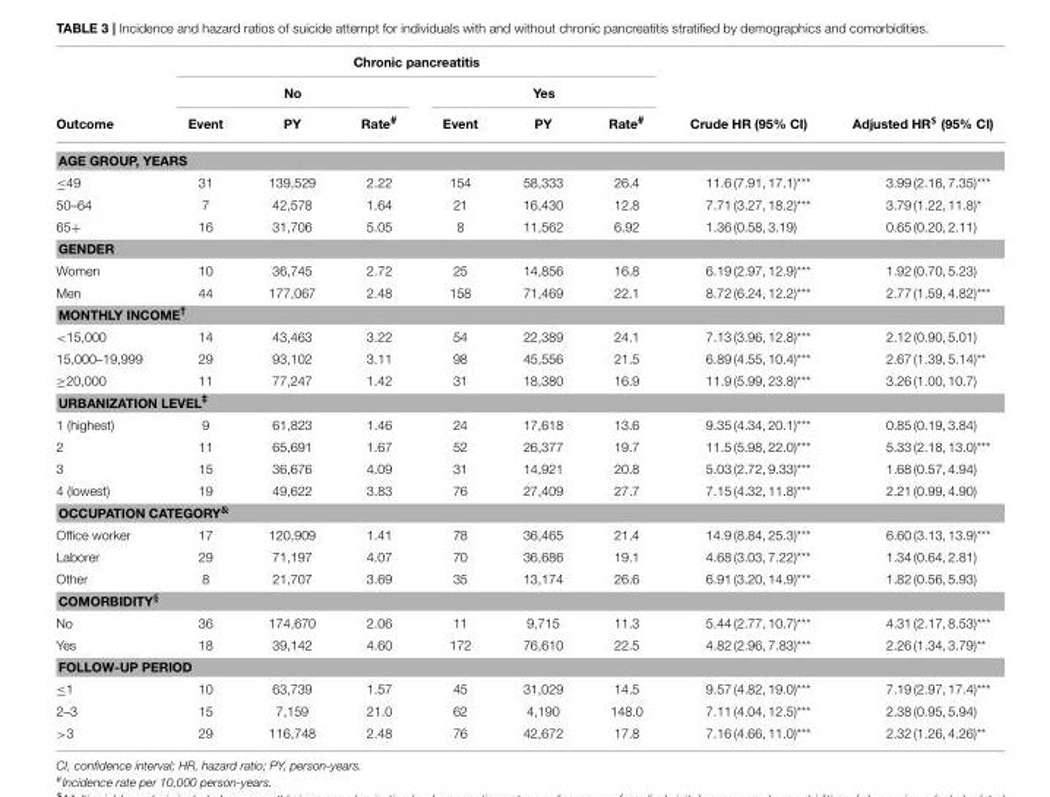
<table><thead><tr><td rowspan="3">Outcome</td><td colspan="6">Chronic pancreatitis</td><td rowspan="3">Crude HR (95% CI)</td><td rowspan="3">Adjusted HR<sup>$</sup> (95% CI)</td></tr><tr><td colspan="3">No</td><td colspan="3">Yes</td></tr><tr><td>Event</td><td>PY</td><td>Rate<sup>#</sup></td><td>Event</td><td>PY</td><td>Rate<sup>#</sup></td></tr></thead><tbody><tr><td colspan="9">AGE GROUP, YEARS</td></tr><tr><td>≤49</td><td>31</td><td>139,529</td><td>2.22</td><td>154</td><td>58,333</td><td>26.4</td><td>11.6 (7.91, 17.1)***</td><td>3.99 (2.16, 7.35)***</td></tr><tr><td>50–64</td><td>7</td><td>42,578</td><td>1.64</td><td>21</td><td>16,430</td><td>12.8</td><td>7.71 (3.27, 18.2)***</td><td>3.79 (1.22, 11.8)*</td></tr><tr><td>65+</td><td>16</td><td>31,706</td><td>5.05</td><td>8</td><td>11,562</td><td>6.92</td><td>1.36 (0.58, 3.19)</td><td>0.65 (0.20, 2.11)</td></tr><tr><td colspan="9">GENDER</td></tr><tr><td>Women</td><td>10</td><td>36,745</td><td>2.72</td><td>25</td><td>14,856</td><td>16.8</td><td>6.19 (2.97, 12.9)***</td><td>1.92 (0.70, 5.23)</td></tr><tr><td>Men</td><td>44</td><td>177,067</td><td>2.48</td><td>158</td><td>71,469</td><td>22.1</td><td>8.72 (6.24, 12.2)***</td><td>2.77 (1.59, 4.82)***</td></tr><tr><td colspan="9">MONTHLY INCOME<sup>†</sup></td></tr><tr><td>&lt;15,000</td><td>14</td><td>43,463</td><td>3.22</td><td>54</td><td>22,389</td><td>24.1</td><td>7.13 (3.96, 12.8)***</td><td>2.12 (0.90, 5.01)</td></tr><tr><td>15,000–19,999</td><td>29</td><td>93,102</td><td>3.11</td><td>98</td><td>45,556</td><td>21.5</td><td>6.89 (4.55, 10.4)***</td><td>2.67 (1.39, 5.14)**</td></tr><tr><td>≥20,000</td><td>11</td><td>77,247</td><td>1.42</td><td>31</td><td>18,380</td><td>16.9</td><td>11.9 (5.99, 23.8)***</td><td>3.26 (1.00, 10.7)</td></tr><tr><td colspan="9">URBANIZATION LEVEL<sup>‡</sup></td></tr><tr><td>1 (highest)</td><td>9</td><td>61,823</td><td>1.46</td><td>24</td><td>17,618</td><td>13.6</td><td>9.35 (4.34, 20.1)***</td><td>0.85 (0.19, 3.84)</td></tr><tr><td>2</td><td>11</td><td>65,691</td><td>1.67</td><td>52</td><td>26,377</td><td>19.7</td><td>11.5 (5.98, 22.0)***</td><td>5.33 (2.18, 13.0)***</td></tr><tr><td>3</td><td>15</td><td>36,676</td><td>4.09</td><td>31</td><td>14,921</td><td>20.8</td><td>5.03 (2.72, 9.33)***</td><td>1.68 (0.57, 4.94)</td></tr><tr><td>4 (lowest)</td><td>19</td><td>49,622</td><td>3.83</td><td>76</td><td>27,409</td><td>27.7</td><td>7.15 (4.32, 11.8)***</td><td>2.21 (0.99, 4.90)</td></tr><tr><td colspan="9">OCCUPATION CATEGORY<sup>&amp;</sup></td></tr><tr><td>Office worker</td><td>17</td><td>120,909</td><td>1.41</td><td>78</td><td>36,465</td><td>21.4</td><td>14.9 (8.84, 25.3)***</td><td>6.60 (3.13, 13.9)***</td></tr><tr><td>Laborer</td><td>29</td><td>71,197</td><td>4.07</td><td>70</td><td>36,686</td><td>19.1</td><td>4.68 (3.03, 7.22)***</td><td>1.34 (0.64, 2.81)</td></tr><tr><td>Other</td><td>8</td><td>21,707</td><td>3.69</td><td>35</td><td>13,174</td><td>26.6</td><td>6.91 (3.20, 14.9)***</td><td>1.82 (0.56, 5.93)</td></tr><tr><td colspan="9">COMORBIDITY<sup>§</sup></td></tr><tr><td>No</td><td>36</td><td>174,670</td><td>2.06</td><td>11</td><td>9,715</td><td>11.3</td><td>5.44 (2.77, 10.7)***</td><td>4.31 (2.17, 8.53)***</td></tr><tr><td>Yes</td><td>18</td><td>39,142</td><td>4.60</td><td>172</td><td>76,610</td><td>22.5</td><td>4.82 (2.96, 7.83)***</td><td>2.26 (1.34, 3.79)**</td></tr><tr><td colspan="9">FOLLOW-UP PERIOD</td></tr><tr><td>≤1</td><td>10</td><td>63,739</td><td>1.57</td><td>45</td><td>31,029</td><td>14.5</td><td>9.57 (4.82, 19.0)***</td><td>7.19 (2.97, 17.4)***</td></tr><tr><td>2–3</td><td>15</td><td>7,159</td><td>21.0</td><td>62</td><td>4,190</td><td>148.0</td><td>7.11 (4.04, 12.5)***</td><td>2.38 (0.95, 5.94)</td></tr><tr><td>&gt;3</td><td>29</td><td>116,748</td><td>2.48</td><td>76</td><td>42,672</td><td>17.8</td><td>7.16 (4.66, 11.0)***</td><td>2.32 (1.26, 4.26)**</td></tr></tbody></table>